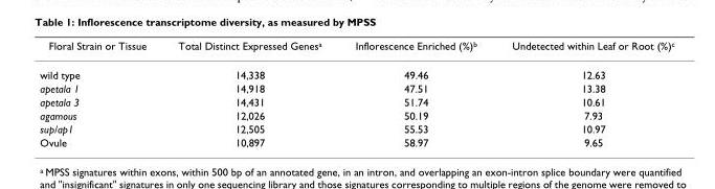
<table><thead><tr><td>Floral Strain or Tissue</td><td>Total Distinct Expressed Genes<sup>a</sup></td><td>Inflorescence Enriched (%)<sup>b</sup></td><td>Undetected within Leaf or Root (%)<sup>c</sup></td></tr></thead><tbody><tr><td>wild type</td><td>14,338</td><td>49.46</td><td>12.63</td></tr><tr><td>apetala 1</td><td>14,918</td><td>47.51</td><td>13.38</td></tr><tr><td>apetala 3</td><td>14,431</td><td>51.74</td><td>10.61</td></tr><tr><td>agamous</td><td>12,026</td><td>50.19</td><td>7.93</td></tr><tr><td>sup/ap1</td><td>12,505</td><td>55.53</td><td>10.97</td></tr><tr><td>Ovule</td><td>10,897</td><td>58.97</td><td>9.65</td></tr></tbody></table>